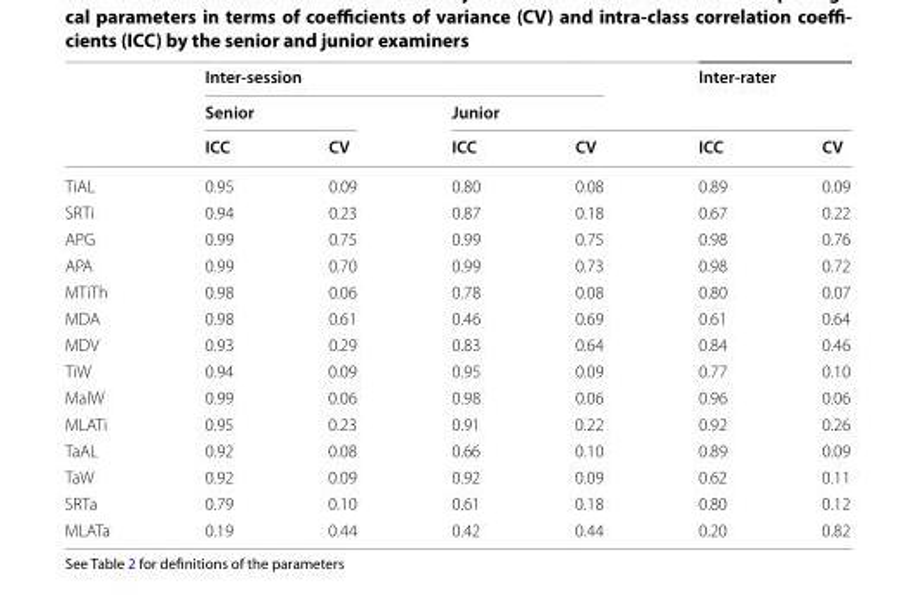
<table><thead><tr><td rowspan="3"></td><td colspan="4">Inter‑session</td><td rowspan="2" colspan="2">Inter‑rater</td></tr><tr><td colspan="2">Senior</td><td colspan="2">Junior</td></tr><tr><td>ICC</td><td>CV</td><td>ICC</td><td>CV</td><td>ICC</td><td>CV</td></tr></thead><tbody><tr><td>TiAL</td><td>0.95</td><td>0.09</td><td>0.80</td><td>0.08</td><td>0.89</td><td>0.09</td></tr><tr><td>SRTi</td><td>0.94</td><td>0.23</td><td>0.87</td><td>0.18</td><td>0.67</td><td>0.22</td></tr><tr><td>APG</td><td>0.99</td><td>0.75</td><td>0.99</td><td>0.75</td><td>0.98</td><td>0.76</td></tr><tr><td>APA</td><td>0.99</td><td>0.70</td><td>0.99</td><td>0.73</td><td>0.98</td><td>0.72</td></tr><tr><td>MTiTh</td><td>0.98</td><td>0.06</td><td>0.78</td><td>0.08</td><td>0.80</td><td>0.07</td></tr><tr><td>MDA</td><td>0.98</td><td>0.61</td><td>0.46</td><td>0.69</td><td>0.61</td><td>0.64</td></tr><tr><td>MDV</td><td>0.93</td><td>0.29</td><td>0.83</td><td>0.64</td><td>0.84</td><td>0.46</td></tr><tr><td>TiW</td><td>0.94</td><td>0.09</td><td>0.95</td><td>0.09</td><td>0.77</td><td>0.10</td></tr><tr><td>MalW</td><td>0.99</td><td>0.06</td><td>0.98</td><td>0.06</td><td>0.96</td><td>0.06</td></tr><tr><td>MLATi</td><td>0.95</td><td>0.23</td><td>0.91</td><td>0.22</td><td>0.92</td><td>0.26</td></tr><tr><td>TaAL</td><td>0.92</td><td>0.08</td><td>0.66</td><td>0.10</td><td>0.89</td><td>0.09</td></tr><tr><td>TaW</td><td>0.92</td><td>0.09</td><td>0.92</td><td>0.09</td><td>0.62</td><td>0.11</td></tr><tr><td>SRTa</td><td>0.79</td><td>0.10</td><td>0.61</td><td>0.18</td><td>0.80</td><td>0.12</td></tr><tr><td>MLATa</td><td>0.19</td><td>0.44</td><td>0.42</td><td>0.44</td><td>0.20</td><td>0.82</td></tr></tbody></table>